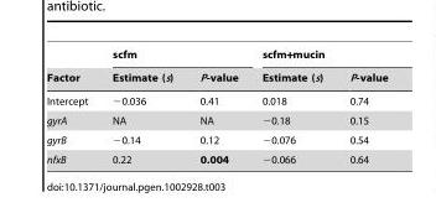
<table><thead><tr><td rowspan="2">Factor</td><td colspan="2">scfm</td><td colspan="2">scfm+mucin</td></tr><tr><td>Estimate (s)</td><td>P-value</td><td>Estimate (s)</td><td>P-value</td></tr></thead><tbody><tr><td>Intercept</td><td>−0.036</td><td>0.41</td><td>0.018</td><td>0.74</td></tr><tr><td>gyrA</td><td>NA</td><td>NA</td><td>−0.18</td><td>0.15</td></tr><tr><td>gyrB</td><td>−0.14</td><td>0.12</td><td>−0.076</td><td>0.54</td></tr><tr><td>nfxB</td><td>0.22</td><td>0.004</td><td>−0.066</td><td>0.64</td></tr></tbody></table>